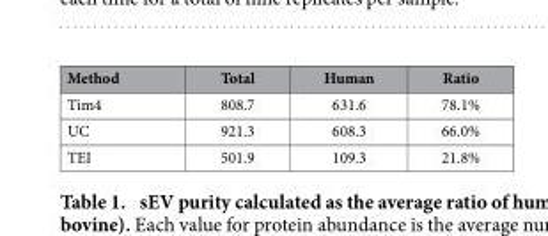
<table><thead><tr><td>Method</td><td>Total</td><td>Human</td><td>Ratio</td></tr></thead><tbody><tr><td>Tim4</td><td>808.7</td><td>631.6</td><td>78.1%</td></tr><tr><td>UC</td><td>921.3</td><td>608.3</td><td>66.0%</td></tr><tr><td>TEI</td><td>501.9</td><td>109.3</td><td>21.8%</td></tr></tbody></table>